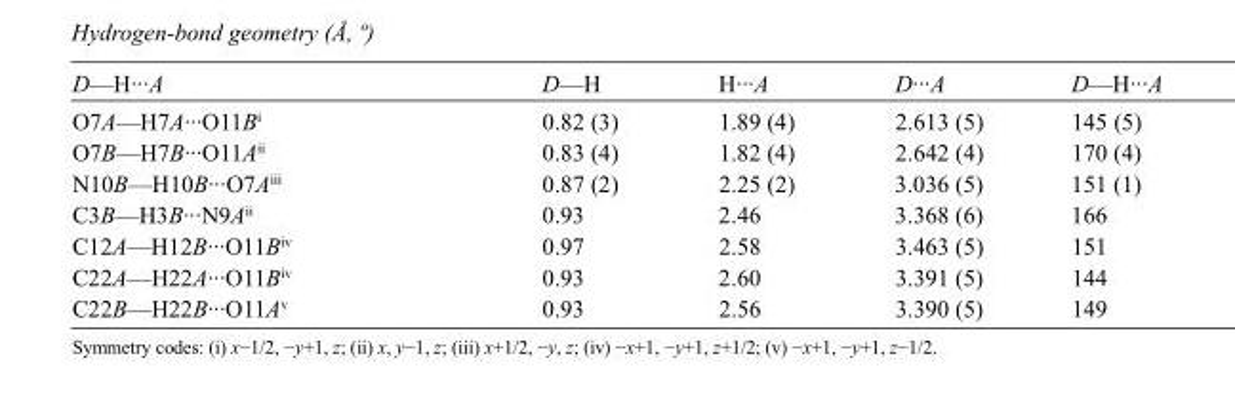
<table><tbody><tr><td>D—H···A</td><td>D—H</td><td>H···A</td><td>D···A</td><td>D—H···A</td></tr><tr><td>O7A—H7A···O11B<sup>i</sup></td><td>0.82 (3)</td><td>1.89 (4)</td><td>2.613 (5)</td><td>145 (5)</td></tr><tr><td>O7B—H7B···O11A<sup>ii</sup></td><td>0.83 (4)</td><td>1.82 (4)</td><td>2.642 (4)</td><td>170 (4)</td></tr><tr><td>N10B—H10B···O7A<sup>iii</sup></td><td>0.87 (2)</td><td>2.25 (2)</td><td>3.036 (5)</td><td>151 (1)</td></tr><tr><td>C3B—H3B···N9A<sup>ii</sup></td><td>0.93</td><td>2.46</td><td>3.368 (6)</td><td>166</td></tr><tr><td>C12A—H12B···O11B<sup>iv</sup></td><td>0.97</td><td>2.58</td><td>3.463 (5)</td><td>151</td></tr><tr><td>C22A—H22A···O11B<sup>iv</sup></td><td>0.93</td><td>2.60</td><td>3.391 (5)</td><td>144</td></tr><tr><td>C22B—H22B···O11A<sup>v</sup></td><td>0.93</td><td>2.56</td><td>3.390 (5)</td><td>149</td></tr></tbody></table>